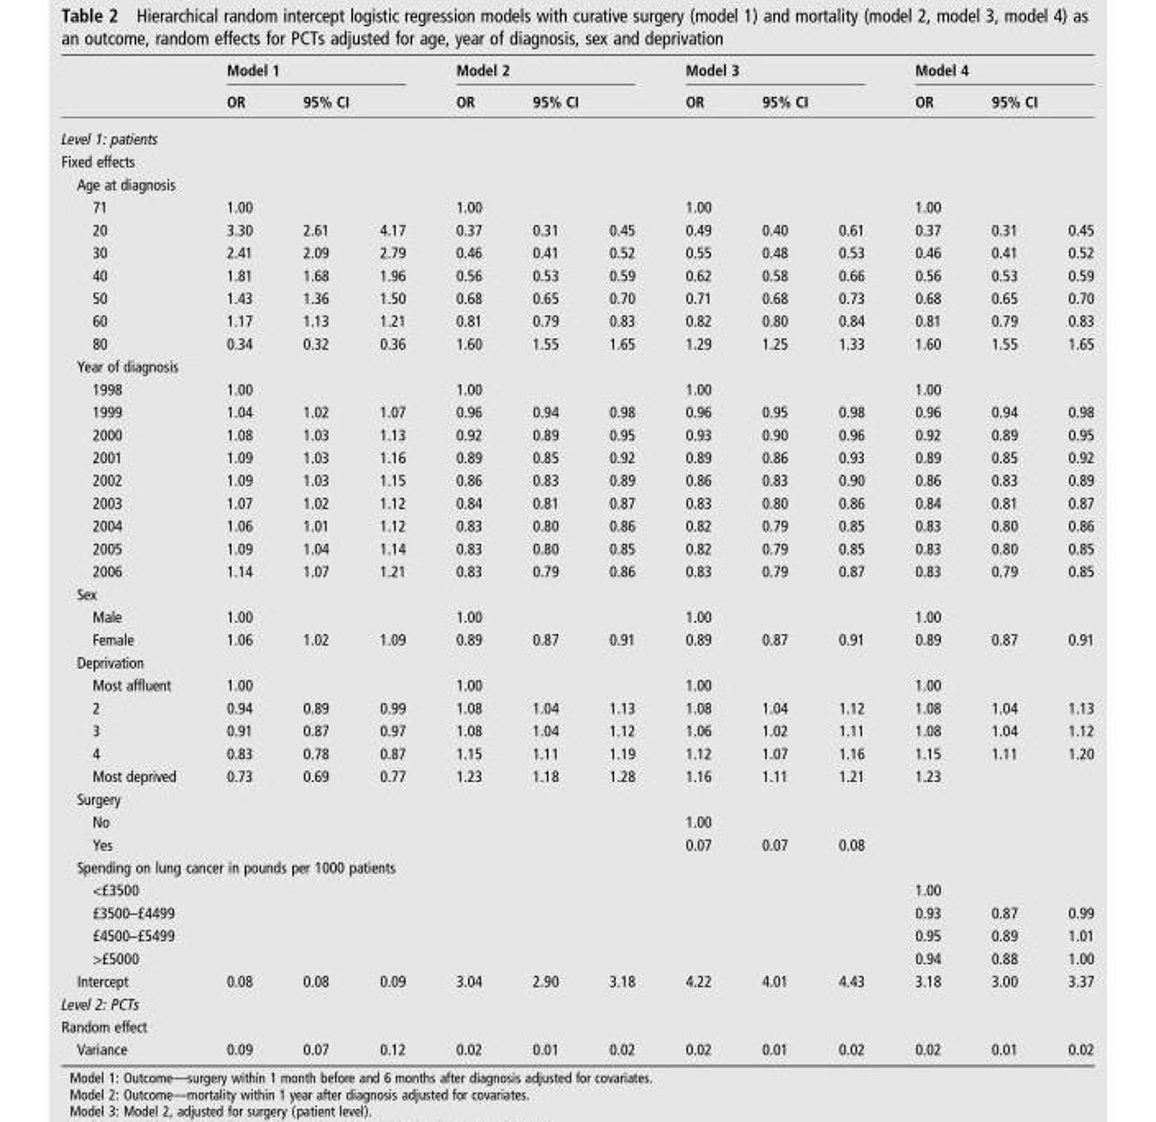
<table><thead><tr><td rowspan="2"></td><td colspan="3">Model 1</td><td colspan="3">Model 2</td><td colspan="3">Model 3</td><td colspan="3">Model 4</td></tr><tr><td>OR</td><td colspan="2">95% CI</td><td>OR</td><td colspan="2">95% CI</td><td>OR</td><td colspan="2">95% CI</td><td>OR</td><td colspan="2">95% CI</td></tr></thead><tbody><tr><td colspan="13">Level 1: patients</td></tr><tr><td colspan="13">Fixed effects</td></tr><tr><td colspan="13">Age at diagnosis</td></tr><tr><td>71</td><td>1.00</td><td></td><td></td><td>1.00</td><td></td><td></td><td>1.00</td><td></td><td></td><td>1.00</td><td></td><td></td></tr><tr><td>20</td><td>3.30</td><td>2.61</td><td>4.17</td><td>0.37</td><td>0.31</td><td>0.45</td><td>0.49</td><td>0.40</td><td>0.61</td><td>0.37</td><td>0.31</td><td>0.45</td></tr><tr><td>30</td><td>2.41</td><td>2.09</td><td>2.79</td><td>0.46</td><td>0.41</td><td>0.52</td><td>0.55</td><td>0.48</td><td>0.53</td><td>0.46</td><td>0.41</td><td>0.52</td></tr><tr><td>40</td><td>1.81</td><td>1.68</td><td>1.96</td><td>0.56</td><td>0.53</td><td>0.59</td><td>0.62</td><td>0.58</td><td>0.66</td><td>0.56</td><td>0.53</td><td>0.59</td></tr><tr><td>50</td><td>1.43</td><td>1.36</td><td>1.50</td><td>0.68</td><td>0.65</td><td>0.70</td><td>0.71</td><td>0.68</td><td>0.73</td><td>0.68</td><td>0.65</td><td>0.70</td></tr><tr><td>60</td><td>1.17</td><td>1.13</td><td>1.21</td><td>0.81</td><td>0.79</td><td>0.83</td><td>0.82</td><td>0.80</td><td>0.84</td><td>0.81</td><td>0.79</td><td>0.83</td></tr><tr><td>80</td><td>0.34</td><td>0.32</td><td>0.36</td><td>1.60</td><td>1.55</td><td>1.65</td><td>1.29</td><td>1.25</td><td>1.33</td><td>1.60</td><td>1.55</td><td>1.65</td></tr><tr><td colspan="13">Year of diagnosis</td></tr><tr><td>1998</td><td>1.00</td><td></td><td></td><td>1.00</td><td></td><td></td><td>1.00</td><td></td><td></td><td>1.00</td><td></td><td></td></tr><tr><td>1999</td><td>1.04</td><td>1.02</td><td>1.07</td><td>0.96</td><td>0.94</td><td>0.98</td><td>0.96</td><td>0.95</td><td>0.98</td><td>0.96</td><td>0.94</td><td>0.98</td></tr><tr><td>2000</td><td>1.08</td><td>1.03</td><td>1.13</td><td>0.92</td><td>0.89</td><td>0.95</td><td>0.93</td><td>0.90</td><td>0.96</td><td>0.92</td><td>0.89</td><td>0.95</td></tr><tr><td>2001</td><td>1.09</td><td>1.03</td><td>1.16</td><td>0.89</td><td>0.85</td><td>0.92</td><td>0.89</td><td>0.86</td><td>0.93</td><td>0.89</td><td>0.85</td><td>0.92</td></tr><tr><td>2002</td><td>1.09</td><td>1.03</td><td>1.15</td><td>0.86</td><td>0.83</td><td>0.89</td><td>0.86</td><td>0.83</td><td>0.90</td><td>0.86</td><td>0.83</td><td>0.89</td></tr><tr><td>2003</td><td>1.07</td><td>1.02</td><td>1.12</td><td>0.84</td><td>0.81</td><td>0.87</td><td>0.83</td><td>0.80</td><td>0.86</td><td>0.84</td><td>0.81</td><td>0.87</td></tr><tr><td>2004</td><td>1.06</td><td>1.01</td><td>1.12</td><td>0.83</td><td>0.80</td><td>0.86</td><td>0.82</td><td>0.79</td><td>0.85</td><td>0.83</td><td>0.80</td><td>0.86</td></tr><tr><td>2005</td><td>1.09</td><td>1.04</td><td>1.14</td><td>0.83</td><td>0.80</td><td>0.85</td><td>0.82</td><td>0.79</td><td>0.85</td><td>0.83</td><td>0.80</td><td>0.85</td></tr><tr><td>2006</td><td>1.14</td><td>1.07</td><td>1.21</td><td>0.83</td><td>0.79</td><td>0.86</td><td>0.83</td><td>0.79</td><td>0.87</td><td>0.83</td><td>0.79</td><td>0.85</td></tr><tr><td colspan="13">Sex</td></tr><tr><td>Male</td><td>1.00</td><td></td><td></td><td>1.00</td><td></td><td></td><td>1.00</td><td></td><td></td><td>1.00</td><td></td><td></td></tr><tr><td>Female</td><td>1.06</td><td>1.02</td><td>1.09</td><td>0.89</td><td>0.87</td><td>0.91</td><td>0.89</td><td>0.87</td><td>0.91</td><td>0.89</td><td>0.87</td><td>0.91</td></tr><tr><td colspan="13">Deprivation</td></tr><tr><td>Most affluent</td><td>1.00</td><td></td><td></td><td>1.00</td><td></td><td></td><td>1.00</td><td></td><td></td><td>1.00</td><td></td><td></td></tr><tr><td>2</td><td>0.94</td><td>0.89</td><td>0.99</td><td>1.08</td><td>1.04</td><td>1.13</td><td>1.08</td><td>1.04</td><td>1.12</td><td>1.08</td><td>1.04</td><td>1.13</td></tr><tr><td>3</td><td>0.91</td><td>0.87</td><td>0.97</td><td>1.08</td><td>1.04</td><td>1.12</td><td>1.06</td><td>1.02</td><td>1.11</td><td>1.08</td><td>1.04</td><td>1.12</td></tr><tr><td>4</td><td>0.83</td><td>0.78</td><td>0.87</td><td>1.15</td><td>1.11</td><td>1.19</td><td>1.12</td><td>1.07</td><td>1.16</td><td>1.15</td><td>1.11</td><td>1.20</td></tr><tr><td>Most deprived</td><td>0.73</td><td>0.69</td><td>0.77</td><td>1.23</td><td>1.18</td><td>1.28</td><td>1.16</td><td>1.11</td><td>1.21</td><td>1.23</td><td></td><td></td></tr><tr><td colspan="13">Surgery</td></tr><tr><td>No</td><td></td><td></td><td></td><td></td><td></td><td></td><td>1.00</td><td></td><td></td><td></td><td></td><td></td></tr><tr><td>Yes</td><td></td><td></td><td></td><td></td><td></td><td></td><td>0.07</td><td>0.07</td><td>0.08</td><td></td><td></td><td></td></tr><tr><td colspan="13">Spending on lung cancer in pounds per 1000 patients</td></tr><tr><td>&lt;£3500</td><td></td><td></td><td></td><td></td><td></td><td></td><td></td><td></td><td></td><td>1.00</td><td></td><td></td></tr><tr><td>£3500–£4499</td><td></td><td></td><td></td><td></td><td></td><td></td><td></td><td></td><td></td><td>0.93</td><td>0.87</td><td>0.99</td></tr><tr><td>£4500–£5499</td><td></td><td></td><td></td><td></td><td></td><td></td><td></td><td></td><td></td><td>0.95</td><td>0.89</td><td>1.01</td></tr><tr><td>&gt;£5000</td><td></td><td></td><td></td><td></td><td></td><td></td><td></td><td></td><td></td><td>0.94</td><td>0.88</td><td>1.00</td></tr><tr><td>Intercept</td><td>0.08</td><td>0.08</td><td>0.09</td><td>3.04</td><td>2.90</td><td>3.18</td><td>4.22</td><td>4.01</td><td>4.43</td><td>3.18</td><td>3.00</td><td>3.37</td></tr><tr><td colspan="13">Level 2: PCTs</td></tr><tr><td colspan="13">Random effect</td></tr><tr><td>Variance</td><td>0.09</td><td>0.07</td><td>0.12</td><td>0.02</td><td>0.01</td><td>0.02</td><td>0.02</td><td>0.01</td><td>0.02</td><td>0.02</td><td>0.01</td><td>0.02</td></tr></tbody></table>